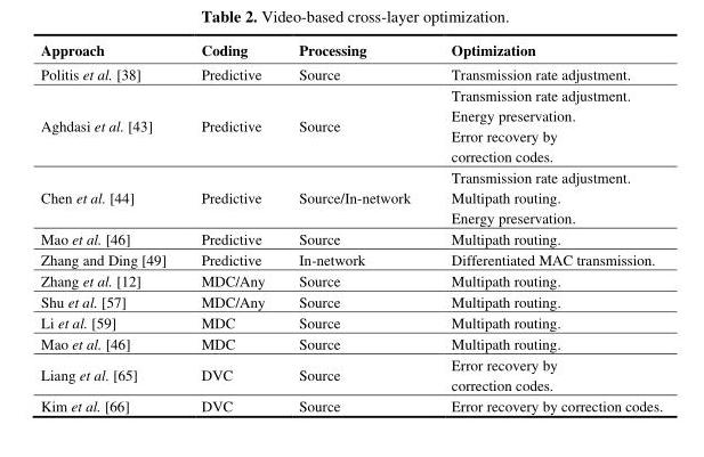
<table><thead><tr><td>Approach</td><td>Coding</td><td>Processing</td><td>Optimization</td></tr></thead><tbody><tr><td>Politis et al. [38]</td><td>Predictive</td><td>Source</td><td>Transmission rate adjustment.</td></tr><tr><td>Aghdasi et al. [43]</td><td>Predictive</td><td>Source</td><td>Transmission rate adjustment. Energy preservation. Error recovery by correction codes.</td></tr><tr><td>Chen et al. [44]</td><td>Predictive</td><td>Source/In-network</td><td>Transmission rate adjustment. Multipath routing. Energy preservation.</td></tr><tr><td>Mao et al. [46]</td><td>Predictive</td><td>Source</td><td>Multipath routing.</td></tr><tr><td>Zhang and Ding [49]</td><td>Predictive</td><td>In-network</td><td>Differentiated MAC transmission.</td></tr><tr><td>Zhang et al. [12]</td><td>MDC/Any</td><td>Source</td><td>Multipath routing.</td></tr><tr><td>Shu et al. [57]</td><td>MDC/Any</td><td>Source</td><td>Multipath routing.</td></tr><tr><td>Li et al. [59]</td><td>MDC</td><td>Source</td><td>Multipath routing.</td></tr><tr><td>Mao et al. [46]</td><td>MDC</td><td>Source</td><td>Multipath routing.</td></tr><tr><td>Liang et al. [65]</td><td>DVC</td><td>Source</td><td>Error recovery by correction codes.</td></tr><tr><td>Kim et al. [66]</td><td>DVC</td><td>Source</td><td>Error recovery by correction codes.</td></tr></tbody></table>